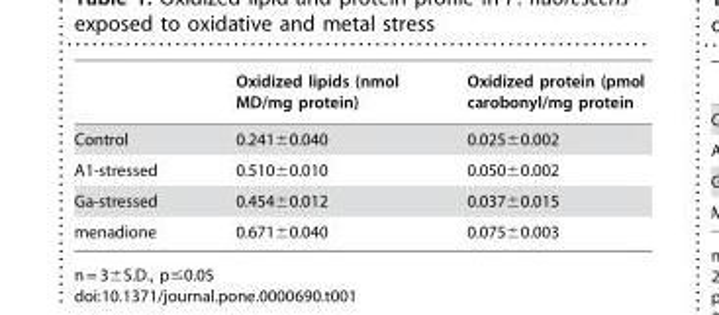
<table><thead><tr><td></td><td>Oxidized lipids (nmol MD/mg protein)</td><td>Oxidized protein (pmol carobonyl/mg protein</td></tr></thead><tbody><tr><td>Control</td><td>0.241±0.040</td><td>0.025±0.002</td></tr><tr><td>A1-stressed</td><td>0.510±0.010</td><td>0.050±0.002</td></tr><tr><td>Ga-stressed</td><td>0.454±0.012</td><td>0.037±0.015</td></tr><tr><td>menadione</td><td>0.671±0.040</td><td>0.075±0.003</td></tr></tbody></table>